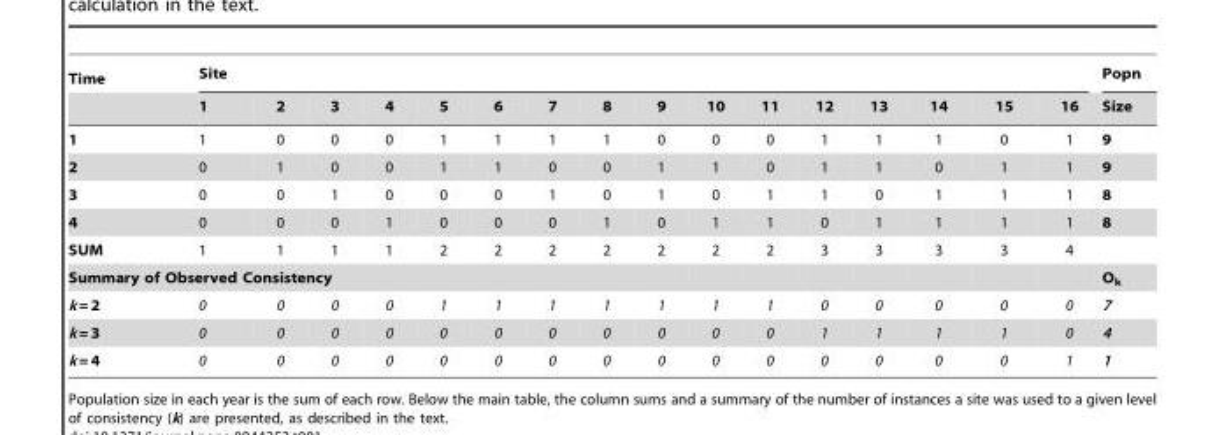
<table><thead><tr><td rowspan="2">Time</td><td colspan="16">Site</td><td rowspan="2">Popn Size</td></tr><tr><td>1</td><td>2</td><td>3</td><td>4</td><td>5</td><td>6</td><td>7</td><td>8</td><td>9</td><td>10</td><td>11</td><td>12</td><td>13</td><td>14</td><td>15</td><td>16</td></tr></thead><tbody><tr><td>1</td><td>1</td><td>0</td><td>0</td><td>0</td><td>1</td><td>1</td><td>1</td><td>1</td><td>0</td><td>0</td><td>0</td><td>1</td><td>1</td><td>1</td><td>0</td><td>1</td><td>9</td></tr><tr><td>2</td><td>0</td><td>1</td><td>0</td><td>0</td><td>1</td><td>1</td><td>0</td><td>0</td><td>1</td><td>1</td><td>0</td><td>1</td><td>1</td><td>0</td><td>1</td><td>1</td><td>9</td></tr><tr><td>3</td><td>0</td><td>0</td><td>1</td><td>0</td><td>0</td><td>0</td><td>1</td><td>0</td><td>1</td><td>0</td><td>1</td><td>1</td><td>0</td><td>1</td><td>1</td><td>1</td><td>8</td></tr><tr><td>4</td><td>0</td><td>0</td><td>0</td><td>1</td><td>0</td><td>0</td><td>0</td><td>1</td><td>0</td><td>1</td><td>1</td><td>0</td><td>1</td><td>1</td><td>1</td><td>1</td><td>8</td></tr><tr><td>SUM</td><td>1</td><td>1</td><td>1</td><td>1</td><td>2</td><td>2</td><td>2</td><td>2</td><td>2</td><td>2</td><td>2</td><td>3</td><td>3</td><td>3</td><td>3</td><td>4</td><td></td></tr><tr><td colspan="10">Summary of Observed Consistency</td><td></td><td></td><td></td><td></td><td></td><td></td><td></td><td>O<sub>k</sub></td></tr><tr><td>k = 2</td><td>0</td><td>0</td><td>0</td><td>0</td><td>1</td><td>1</td><td>1</td><td>1</td><td>1</td><td>1</td><td>1</td><td>0</td><td>0</td><td>0</td><td>0</td><td>0</td><td>7</td></tr><tr><td>k = 3</td><td>0</td><td>0</td><td>0</td><td>0</td><td>0</td><td>0</td><td>0</td><td>0</td><td>0</td><td>0</td><td>0</td><td>1</td><td>1</td><td>1</td><td>1</td><td>0</td><td>4</td></tr><tr><td>k = 4</td><td>0</td><td>0</td><td>0</td><td>0</td><td>0</td><td>0</td><td>0</td><td>0</td><td>0</td><td>0</td><td>0</td><td>0</td><td>0</td><td>0</td><td>0</td><td>1</td><td>1</td></tr></tbody></table>